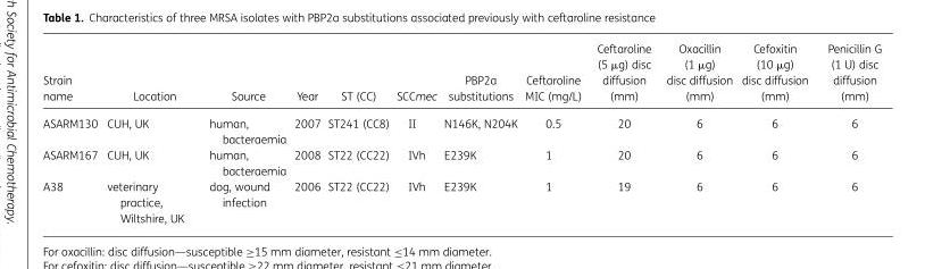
<table><thead><tr><td>Strain name</td><td>Location</td><td>Source</td><td>Year</td><td>ST (CC)</td><td>SCCmec</td><td>PBP2a substitutions</td><td>Ceftaroline MIC (mg/L)</td><td>Ceftaroline (5 μg) disc diffusion (mm)</td><td>Oxacillin (1 μg) disc diffusion (mm)</td><td>Cefoxitin (10 μg) disc diffusion (mm)</td><td>Penicillin G (1 U) disc diffusion (mm)</td></tr></thead><tbody><tr><td>ASARM130</td><td>CUH, UK</td><td>human, bacteraemia</td><td>2007</td><td>ST241 (CC8)</td><td>II</td><td>N146K, N204K</td><td>0.5</td><td>20</td><td>6</td><td>6</td><td>6</td></tr><tr><td>ASARM167</td><td>CUH, UK</td><td>human, bacteraemia</td><td>2008</td><td>ST22 (CC22)</td><td>IVh</td><td>E239K</td><td>1</td><td>20</td><td>6</td><td>6</td><td>6</td></tr><tr><td>A38</td><td>veterinary practice, Wiltshire, UK</td><td>dog, wound infection</td><td>2006</td><td>ST22 (CC22)</td><td>IVh</td><td>E239K</td><td>1</td><td>19</td><td>6</td><td>6</td><td>6</td></tr></tbody></table>